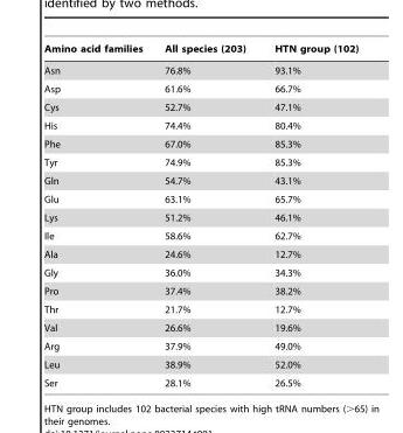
<table><thead><tr><td>Amino acid families</td><td>All species (203)</td><td>HTN group (102)</td></tr></thead><tbody><tr><td>Asn</td><td>76.8%</td><td>93.1%</td></tr><tr><td>Asp</td><td>61.6%</td><td>66.7%</td></tr><tr><td>Cys</td><td>52.7%</td><td>47.1%</td></tr><tr><td>His</td><td>74.4%</td><td>80.4%</td></tr><tr><td>Phe</td><td>67.0%</td><td>85.3%</td></tr><tr><td>Tyr</td><td>74.9%</td><td>85.3%</td></tr><tr><td>Gln</td><td>54.7%</td><td>43.1%</td></tr><tr><td>Glu</td><td>63.1%</td><td>65.7%</td></tr><tr><td>Lys</td><td>51.2%</td><td>46.1%</td></tr><tr><td>Ile</td><td>58.6%</td><td>62.7%</td></tr><tr><td>Ala</td><td>24.6%</td><td>12.7%</td></tr><tr><td>Gly</td><td>36.0%</td><td>34.3%</td></tr><tr><td>Pro</td><td>37.4%</td><td>38.2%</td></tr><tr><td>Thr</td><td>21.7%</td><td>12.7%</td></tr><tr><td>Val</td><td>26.6%</td><td>19.6%</td></tr><tr><td>Arg</td><td>37.9%</td><td>49.0%</td></tr><tr><td>Leu</td><td>38.9%</td><td>52.0%</td></tr><tr><td>Ser</td><td>28.1%</td><td>26.5%</td></tr></tbody></table>